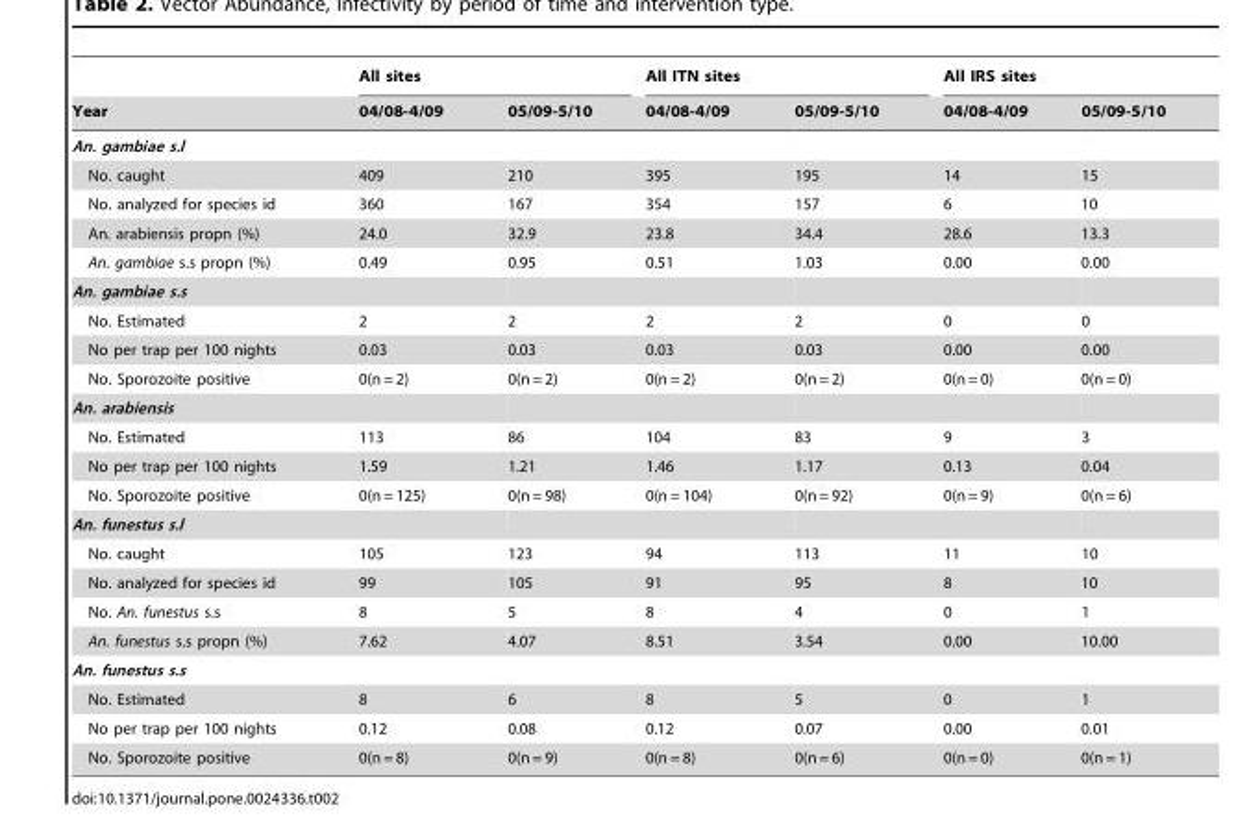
<table><thead><tr><td rowspan="2">Year</td><td colspan="2">All sites</td><td colspan="2">All ITN sites</td><td colspan="2">All IRS sites</td></tr><tr><td>04/08-4/09</td><td>05/09-5/10</td><td>04/08-4/09</td><td>05/09-5/10</td><td>04/08-4/09</td><td>05/09-5/10</td></tr></thead><tbody><tr><td colspan="7">An. gambiae s.l</td></tr><tr><td>No. caught</td><td>409</td><td>210</td><td>395</td><td>195</td><td>14</td><td>15</td></tr><tr><td>No. analyzed for species id</td><td>360</td><td>167</td><td>354</td><td>157</td><td>6</td><td>10</td></tr><tr><td>An. arabiensis propn (%)</td><td>24.0</td><td>32.9</td><td>23.8</td><td>34.4</td><td>28.6</td><td>13.3</td></tr><tr><td>An. gambiae s.s propn (%)</td><td>0.49</td><td>0.95</td><td>0.51</td><td>1.03</td><td>0.00</td><td>0.00</td></tr><tr><td colspan="7">An. gambiae s.s</td></tr><tr><td>No. Estimated</td><td>2</td><td>2</td><td>2</td><td>2</td><td>0</td><td>0</td></tr><tr><td>No per trap per 100 nights</td><td>0.03</td><td>0.03</td><td>0.03</td><td>0.03</td><td>0.00</td><td>0.00</td></tr><tr><td>No. Sporozoite positive</td><td>0(n = 2)</td><td>0(n = 2)</td><td>0(n = 2)</td><td>0(n = 2)</td><td>0(n = 0)</td><td>0(n = 0)</td></tr><tr><td colspan="7">An. arabiensis</td></tr><tr><td>No. Estimated</td><td>113</td><td>86</td><td>104</td><td>83</td><td>9</td><td>3</td></tr><tr><td>No per trap per 100 nights</td><td>1.59</td><td>1.21</td><td>1.46</td><td>1.17</td><td>0.13</td><td>0.04</td></tr><tr><td>No. Sporozoite positive</td><td>0(n = 125)</td><td>0(n = 98)</td><td>0(n = 104)</td><td>0(n = 92)</td><td>0(n = 9)</td><td>0(n = 6)</td></tr><tr><td colspan="7">An. funestus s.l</td></tr><tr><td>No. caught</td><td>105</td><td>123</td><td>94</td><td>113</td><td>11</td><td>10</td></tr><tr><td>No. analyzed for species id</td><td>99</td><td>105</td><td>91</td><td>95</td><td>8</td><td>10</td></tr><tr><td>No. An. funestus s.s</td><td>8</td><td>5</td><td>8</td><td>4</td><td>0</td><td>1</td></tr><tr><td>An. funestus s.s propn (%)</td><td>7.62</td><td>4.07</td><td>8.51</td><td>3.54</td><td>0.00</td><td>10.00</td></tr><tr><td colspan="7">An. funestus s.s</td></tr><tr><td>No. Estimated</td><td>8</td><td>6</td><td>8</td><td>5</td><td>0</td><td>1</td></tr><tr><td>No per trap per 100 nights</td><td>0.12</td><td>0.08</td><td>0.12</td><td>0.07</td><td>0.00</td><td>0.01</td></tr><tr><td>No. Sporozoite positive</td><td>0(n = 8)</td><td>0(n = 9)</td><td>0(n = 8)</td><td>0(n = 6)</td><td>0(n = 0)</td><td>0(n = 1)</td></tr></tbody></table>